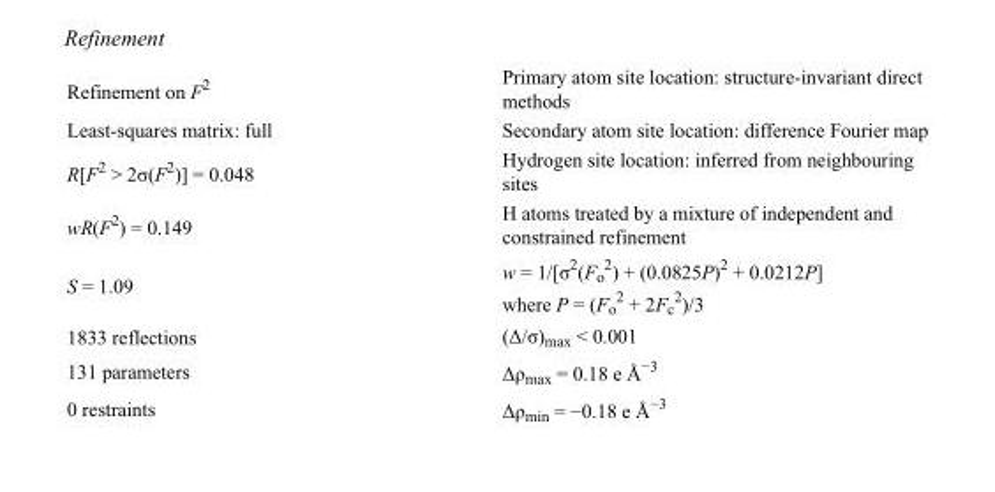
<table><tbody><tr><td>Refinement on F<sup>2</sup></td><td>Primary atom site location: structure-invariant direct methods</td></tr><tr><td>Least-squares matrix: full</td><td>Secondary atom site location: difference Fourier map</td></tr><tr><td>R[F<sup>2</sup> &gt; 2σ(F<sup>2</sup>)] = 0.048</td><td>Hydrogen site location: inferred from neighbouring sites</td></tr><tr><td>wR(F<sup>2</sup>) = 0.149</td><td>H atoms treated by a mixture of independent and constrained refinement</td></tr><tr><td>S = 1.09</td><td>w = 1/[σ<sup>2</sup>(F<sub>o</sub> <sup>2</sup>) + (0.0825P)<sup>2</sup> + 0.0212P] where P = (F<sub>o</sub> <sup>2</sup> + 2F<sub>c</sub> <sup>2</sup>)/3</td></tr><tr><td>1833 reflections</td><td>(Δ/σ)<sub>max</sub> &lt; 0.001</td></tr><tr><td>131 parameters</td><td>Δρ<sub>max</sub> = 0.18 e Å<sup>−3</sup></td></tr><tr><td>0 restraints</td><td>Δρ<sub>min</sub> = −0.18 e Å<sup>−3</sup></td></tr></tbody></table>